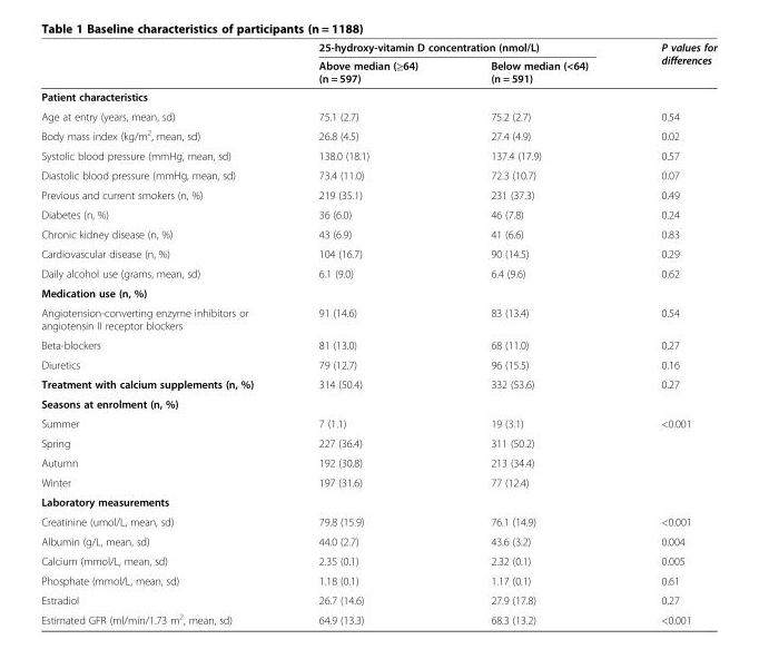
<table><thead><tr><td rowspan="2"></td><td colspan="2">25-hydroxy-vitamin D concentration (nmol/L)</td><td rowspan="2">P values for differences</td></tr><tr><td>Above median (≥64) (n = 597)</td><td>Below median (&lt;64) (n = 591)</td></tr></thead><tbody><tr><td colspan="4">Patient characteristics</td></tr><tr><td>Age at entry (years, mean, sd)</td><td>75.1 (2.7)</td><td>75.2 (2.7)</td><td>0.54</td></tr><tr><td>Body mass index (kg/m<sup>2</sup>, mean, sd)</td><td>26.8 (4.5)</td><td>27.4 (4.9)</td><td>0.02</td></tr><tr><td>Systolic blood pressure (mmHg, mean, sd)</td><td>138.0 (18.1)</td><td>137.4 (17.9)</td><td>0.57</td></tr><tr><td>Diastolic blood pressure (mmHg, mean, sd)</td><td>73.4 (11.0)</td><td>72.3 (10.7)</td><td>0.07</td></tr><tr><td>Previous and current smokers (n, %)</td><td>219 (35.1)</td><td>231 (37.3)</td><td>0.49</td></tr><tr><td>Diabetes (n, %)</td><td>36 (6.0)</td><td>46 (7.8)</td><td>0.24</td></tr><tr><td>Chronic kidney disease (n, %)</td><td>43 (6.9)</td><td>41 (6.6)</td><td>0.83</td></tr><tr><td>Cardiovascular disease (n, %)</td><td>104 (16.7)</td><td>90 (14.5)</td><td>0.29</td></tr><tr><td>Daily alcohol use (grams, mean, sd)</td><td>6.1 (9.0)</td><td>6.4 (9.6)</td><td>0.62</td></tr><tr><td colspan="4">Medication use (n, %)</td></tr><tr><td>Angiotension-converting enzyme inhibitors or angiotensin II receptor blockers</td><td>91 (14.6)</td><td>83 (13.4)</td><td>0.54</td></tr><tr><td>Beta-blockers</td><td>81 (13.0)</td><td>68 (11.0)</td><td>0.27</td></tr><tr><td>Diuretics</td><td>79 (12.7)</td><td>96 (15.5)</td><td>0.16</td></tr><tr><td>Treatment with calcium supplements (n, %)</td><td>314 (50.4)</td><td>332 (53.6)</td><td>0.27</td></tr><tr><td colspan="4">Seasons at enrolment (n, %)</td></tr><tr><td>Summer</td><td>7 (1.1)</td><td>19 (3.1)</td><td rowspan="4">&lt;0.001</td></tr><tr><td>Spring</td><td>227 (36.4)</td><td>311 (50.2)</td></tr><tr><td>Autumn</td><td>192 (30.8)</td><td>213 (34.4)</td></tr><tr><td>Winter</td><td>197 (31.6)</td><td>77 (12.4)</td></tr><tr><td colspan="4">Laboratory measurements</td></tr><tr><td>Creatinine (umol/L, mean, sd)</td><td>79.8 (15.9)</td><td>76.1 (14.9)</td><td>&lt;0.001</td></tr><tr><td>Albumin (g/L, mean, sd)</td><td>44.0 (2.7)</td><td>43.6 (3.2)</td><td>0.004</td></tr><tr><td>Calcium (mmol/L, mean, sd)</td><td>2.35 (0.1)</td><td>2.32 (0.1)</td><td>0.005</td></tr><tr><td>Phosphate (mmol/L, mean, sd)</td><td>1.18 (0.1)</td><td>1.17 (0.1)</td><td>0.61</td></tr><tr><td>Estradiol</td><td>26.7 (14.6)</td><td>27.9 (17.8)</td><td>0.27</td></tr><tr><td>Estimated GFR (ml/min/1.73 m<sup>2</sup>, mean, sd)</td><td>64.9 (13.3)</td><td>68.3 (13.2)</td><td>&lt;0.001</td></tr></tbody></table>